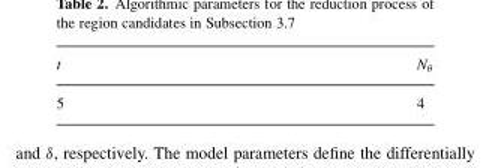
<table><thead><tr><td>t</td><td>N<sub>θ</sub></td></tr></thead><tbody><tr><td>5</td><td>4</td></tr></tbody></table>